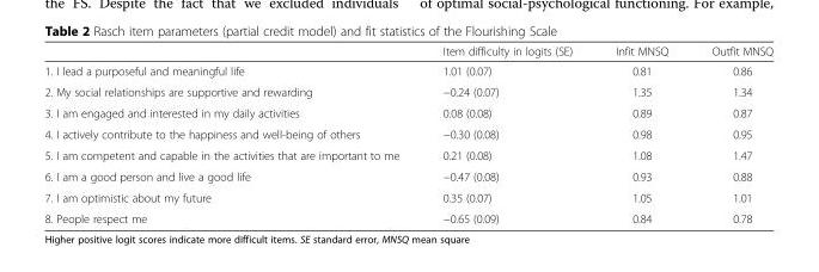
<table><thead><tr><td></td><td>Item difficulty in logits (SE)</td><td>Infit MNSQ</td><td>Outfit MNSQ</td></tr></thead><tbody><tr><td>1. I lead a purposeful and meaningful life</td><td>1.01 (0.07)</td><td>0.81</td><td>0.86</td></tr><tr><td>2. My social relationships are supportive and rewarding</td><td>−0.24 (0.07)</td><td>1.35</td><td>1.34</td></tr><tr><td>3. I am engaged and interested in my daily activities</td><td>0.08 (0.08)</td><td>0.89</td><td>0.87</td></tr><tr><td>4. I actively contribute to the happiness and well-being of others</td><td>−0.30 (0.08)</td><td>0.98</td><td>0.95</td></tr><tr><td>5. I am competent and capable in the activities that are important to me</td><td>0.21 (0.08)</td><td>1.08</td><td>1.47</td></tr><tr><td>6. I am a good person and live a good life</td><td>−0.47 (0.08)</td><td>0.93</td><td>0.88</td></tr><tr><td>7. I am optimistic about my future</td><td>0.35 (0.07)</td><td>1.05</td><td>1.01</td></tr><tr><td>8. People respect me</td><td>−0.65 (0.09)</td><td>0.84</td><td>0.78</td></tr></tbody></table>